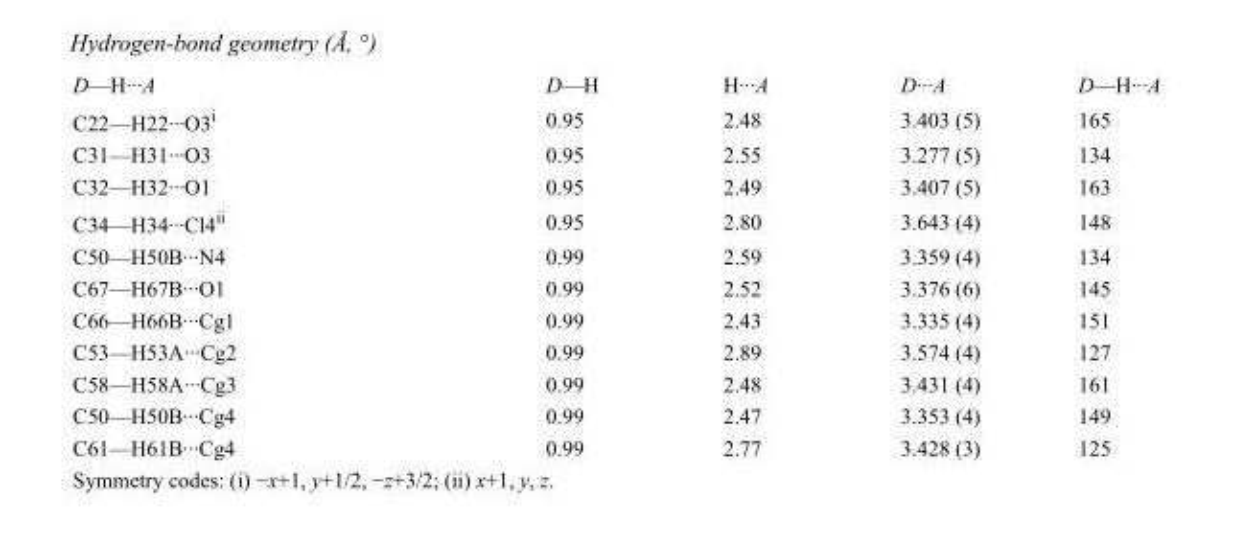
<table><tbody><tr><td>D—H···A</td><td>D—H</td><td>H···A</td><td>D···A</td><td>D—H···A</td></tr><tr><td>C22—H22···O3<sup>i</sup></td><td>0.95</td><td>2.48</td><td>3.403 (5)</td><td>165</td></tr><tr><td>C31—H31···O3</td><td>0.95</td><td>2.55</td><td>3.277 (5)</td><td>134</td></tr><tr><td>C32—H32···O1</td><td>0.95</td><td>2.49</td><td>3.407 (5)</td><td>163</td></tr><tr><td>C34—H34···Cl4<sup>ii</sup></td><td>0.95</td><td>2.80</td><td>3.643 (4)</td><td>148</td></tr><tr><td>C50—H50B···N4</td><td>0.99</td><td>2.59</td><td>3.359 (4)</td><td>134</td></tr><tr><td>C67—H67B···O1</td><td>0.99</td><td>2.52</td><td>3.376 (6)</td><td>145</td></tr><tr><td>C66—H66B···Cg1</td><td>0.99</td><td>2.43</td><td>3.335 (4)</td><td>151</td></tr><tr><td>C53—H53A···Cg2</td><td>0.99</td><td>2.89</td><td>3.574 (4)</td><td>127</td></tr><tr><td>C58—H58A···Cg3</td><td>0.99</td><td>2.48</td><td>3.431 (4)</td><td>161</td></tr><tr><td>C50—H50B···Cg4</td><td>0.99</td><td>2.47</td><td>3.353 (4)</td><td>149</td></tr><tr><td>C61—H61B···Cg4</td><td>0.99</td><td>2.77</td><td>3.428 (3)</td><td>125</td></tr></tbody></table>